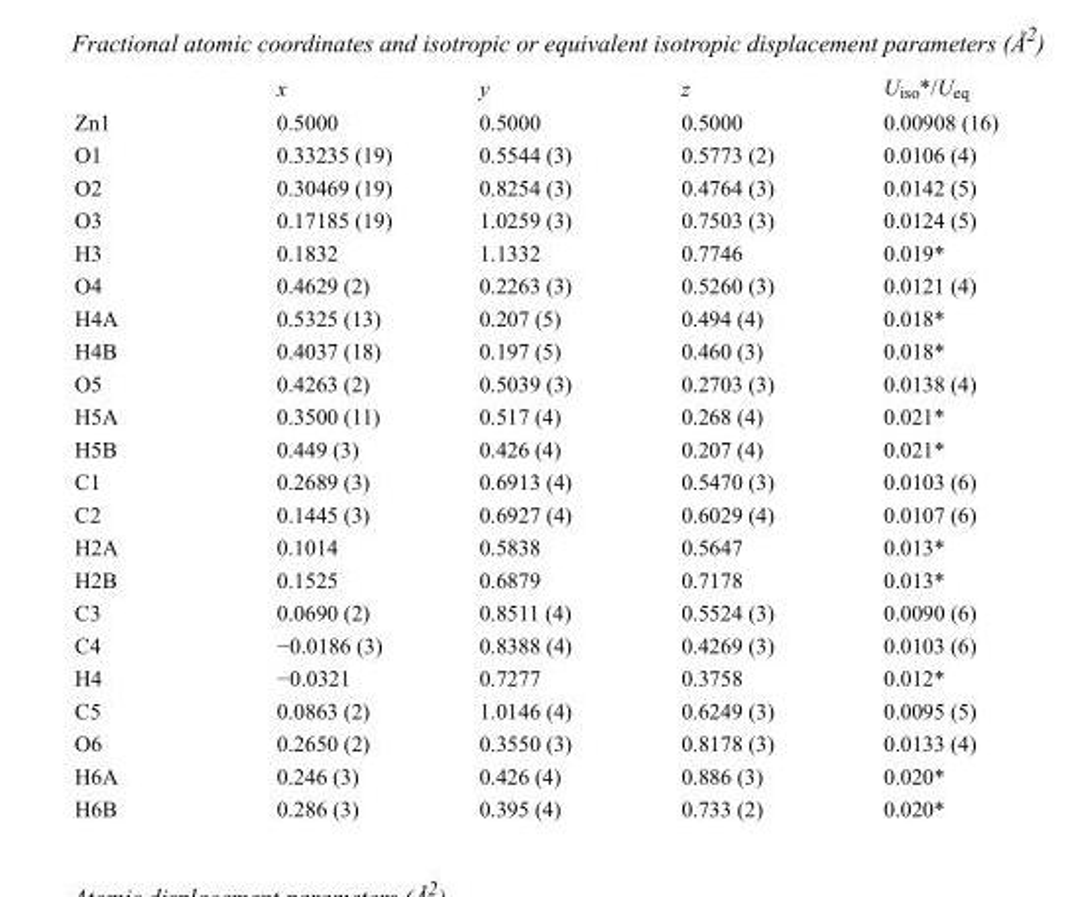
<table><thead><tr><td></td><td>x</td><td>y</td><td>z</td><td>U<sub>iso</sub>*/U<sub>eq</sub></td></tr></thead><tbody><tr><td>Zn1</td><td>0.5000</td><td>0.5000</td><td>0.5000</td><td>0.00908 (16)</td></tr><tr><td>O1</td><td>0.33235 (19)</td><td>0.5544 (3)</td><td>0.5773 (2)</td><td>0.0106 (4)</td></tr><tr><td>O2</td><td>0.30469 (19)</td><td>0.8254 (3)</td><td>0.4764 (3)</td><td>0.0142 (5)</td></tr><tr><td>O3</td><td>0.17185 (19)</td><td>1.0259 (3)</td><td>0.7503 (3)</td><td>0.0124 (5)</td></tr><tr><td>H3</td><td>0.1832</td><td>1.1332</td><td>0.7746</td><td>0.019*</td></tr><tr><td>O4</td><td>0.4629 (2)</td><td>0.2263 (3)</td><td>0.5260 (3)</td><td>0.0121 (4)</td></tr><tr><td>H4A</td><td>0.5325 (13)</td><td>0.207 (5)</td><td>0.494 (4)</td><td>0.018*</td></tr><tr><td>H4B</td><td>0.4037 (18)</td><td>0.197 (5)</td><td>0.460 (3)</td><td>0.018*</td></tr><tr><td>O5</td><td>0.4263 (2)</td><td>0.5039 (3)</td><td>0.2703 (3)</td><td>0.0138 (4)</td></tr><tr><td>H5A</td><td>0.3500 (11)</td><td>0.517 (4)</td><td>0.268 (4)</td><td>0.021*</td></tr><tr><td>H5B</td><td>0.449 (3)</td><td>0.426 (4)</td><td>0.207 (4)</td><td>0.021*</td></tr><tr><td>C1</td><td>0.2689 (3)</td><td>0.6913 (4)</td><td>0.5470 (3)</td><td>0.0103 (6)</td></tr><tr><td>C2</td><td>0.1445 (3)</td><td>0.6927 (4)</td><td>0.6029 (4)</td><td>0.0107 (6)</td></tr><tr><td>H2A</td><td>0.1014</td><td>0.5838</td><td>0.5647</td><td>0.013*</td></tr><tr><td>H2B</td><td>0.1525</td><td>0.6879</td><td>0.7178</td><td>0.013*</td></tr><tr><td>C3</td><td>0.0690 (2)</td><td>0.8511 (4)</td><td>0.5524 (3)</td><td>0.0090 (6)</td></tr><tr><td>C4</td><td>−0.0186 (3)</td><td>0.8388 (4)</td><td>0.4269 (3)</td><td>0.0103 (6)</td></tr><tr><td>H4</td><td>−0.0321</td><td>0.7277</td><td>0.3758</td><td>0.012*</td></tr><tr><td>C5</td><td>0.0863 (2)</td><td>1.0146 (4)</td><td>0.6249 (3)</td><td>0.0095 (5)</td></tr><tr><td>O6</td><td>0.2650 (2)</td><td>0.3550 (3)</td><td>0.8178 (3)</td><td>0.0133 (4)</td></tr><tr><td>H6A</td><td>0.246 (3)</td><td>0.426 (4)</td><td>0.886 (3)</td><td>0.020*</td></tr><tr><td>H6B</td><td>0.286 (3)</td><td>0.395 (4)</td><td>0.733 (2)</td><td>0.020*</td></tr></tbody></table>